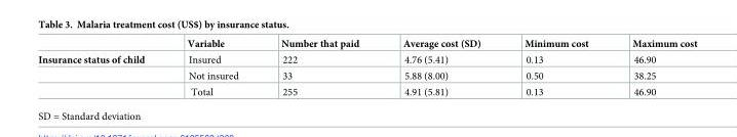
<table><thead><tr><td></td><td>Variable</td><td>Number that paid</td><td>Average cost (SD)</td><td>Minimum cost</td><td>Maximum cost</td></tr></thead><tbody><tr><td rowspan="3">Insurance status of child</td><td>Insured</td><td>222</td><td>4.76 (5.41)</td><td>0.13</td><td>46.90</td></tr><tr><td>Not insured</td><td>33</td><td>5.88 (8.00)</td><td>0.50</td><td>38.25</td></tr><tr><td>Total</td><td>255</td><td>4.91 (5.81)</td><td>0.13</td><td>46.90</td></tr></tbody></table>